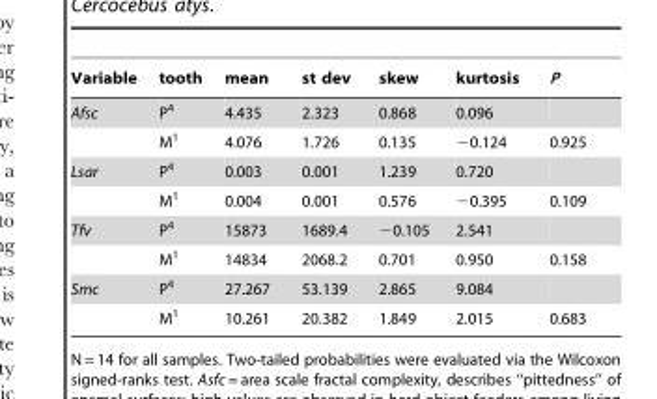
<table><thead><tr><td>Variable</td><td>tooth</td><td>mean</td><td>st dev</td><td>skew</td><td>kurtosis</td><td>P</td></tr></thead><tbody><tr><td rowspan="2">Afsc</td><td>P<sup>4</sup></td><td>4.435</td><td>2.323</td><td>0.868</td><td>0.096</td><td></td></tr><tr><td>M<sup>1</sup></td><td>4.076</td><td>1.726</td><td>0.135</td><td>−0.124</td><td>0.925</td></tr><tr><td rowspan="2">Lsar</td><td>P<sup>4</sup></td><td>0.003</td><td>0.001</td><td>1.239</td><td>0.720</td><td></td></tr><tr><td>M<sup>1</sup></td><td>0.004</td><td>0.001</td><td>0.576</td><td>−0.395</td><td>0.109</td></tr><tr><td rowspan="2">Tfv</td><td>P<sup>4</sup></td><td>15873</td><td>1689.4</td><td>−0.105</td><td>2.541</td><td></td></tr><tr><td>M<sup>1</sup></td><td>14834</td><td>2068.2</td><td>0.701</td><td>0.950</td><td>0.158</td></tr><tr><td rowspan="2">Smc</td><td>P<sup>4</sup></td><td>27.267</td><td>53.139</td><td>2.865</td><td>9.084</td><td></td></tr><tr><td>M<sup>1</sup></td><td>10.261</td><td>20.382</td><td>1.849</td><td>2.015</td><td>0.683</td></tr></tbody></table>